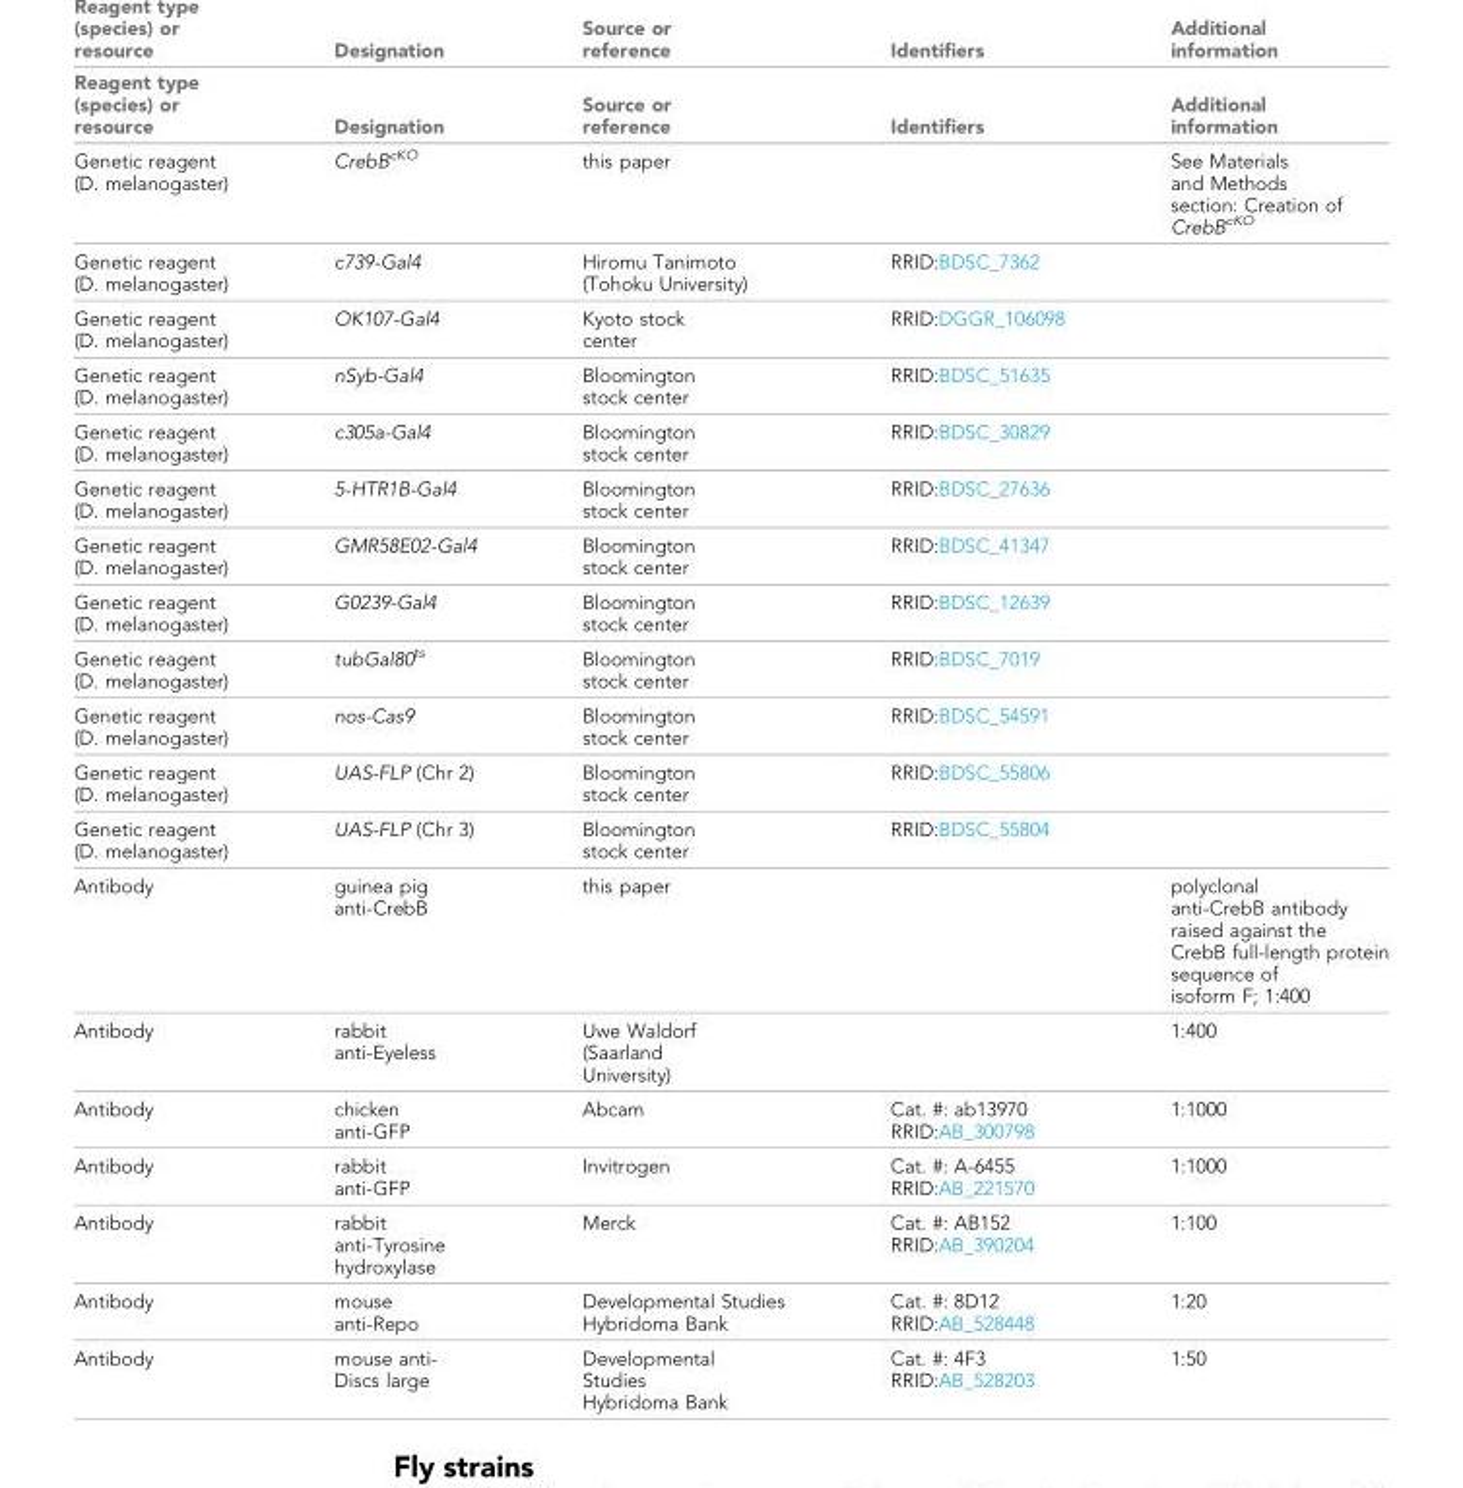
<table><thead><tr><td>Reagent type (species) or resource</td><td>Designation</td><td>Source or reference</td><td>Identifiers</td><td>Additional information</td></tr></thead><tbody><tr><td>Genetic reagent (D. melanogaster)</td><td>CrebB<sup>cKO</sup></td><td>this paper</td><td></td><td>See Materials and Methods section: Creation of CrebB<sup>cKO</sup></td></tr><tr><td>Genetic reagent (D. melanogaster)</td><td>c739-Gal4</td><td>Hiromu Tanimoto (Tohoku University)</td><td>RRID:BDSC_7362</td><td></td></tr><tr><td>Genetic reagent (D. melanogaster)</td><td>OK107-Gal4</td><td>Kyoto stock center</td><td>RRID:DGGR_106098</td><td></td></tr><tr><td>Genetic reagent (D. melanogaster)</td><td>nSyb-Gal4</td><td>Bloomington stock center</td><td>RRID:BDSC_51635</td><td></td></tr><tr><td>Genetic reagent (D. melanogaster)</td><td>c305a-Gal4</td><td>Bloomington stock center</td><td>RRID:BDSC_30829</td><td></td></tr><tr><td>Genetic reagent (D. melanogaster)</td><td>5-HTR1B-Gal4</td><td>Bloomington stock center</td><td>RRID:BDSC_27636</td><td></td></tr><tr><td>Genetic reagent (D. melanogaster)</td><td>GMR58E02-Gal4</td><td>Bloomington stock center</td><td>RRID:BDSC_41347</td><td></td></tr><tr><td>Genetic reagent (D. melanogaster)</td><td>G0239-Gal4</td><td>Bloomington stock center</td><td>RRID:BDSC_12639</td><td></td></tr><tr><td>Genetic reagent (D. melanogaster)</td><td>tubGal80<sup>ts</sup></td><td>Bloomington stock center</td><td>RRID:BDSC_7019</td><td></td></tr><tr><td>Genetic reagent (D. melanogaster)</td><td>nos-Cas9</td><td>Bloomington stock center</td><td>RRID:BDSC_54591</td><td></td></tr><tr><td>Genetic reagent (D. melanogaster)</td><td>UAS-FLP (Chr 2)</td><td>Bloomington stock center</td><td>RRID:BDSC_55806</td><td></td></tr><tr><td>Genetic reagent (D. melanogaster)</td><td>UAS-FLP (Chr 3)</td><td>Bloomington stock center</td><td>RRID:BDSC_55804</td><td></td></tr><tr><td>Antibody</td><td>guinea pig anti-CrebB</td><td>this paper</td><td></td><td>polyclonal anti-CrebB antibody raised against the CrebB full-length protein sequence of isoform F; 1:400</td></tr><tr><td>Antibody</td><td>rabbit anti-Eyeless</td><td>Uwe Waldorf (Saarland University)</td><td></td><td>1:400</td></tr><tr><td>Antibody</td><td>chicken anti-GFP</td><td>Abcam</td><td>Cat. #: ab13970 RRID:AB_300798</td><td>1:1000</td></tr><tr><td>Antibody</td><td>rabbit anti-GFP</td><td>Invitrogen</td><td>Cat. #: A-6455 RRID:AB_221570</td><td>1:1000</td></tr><tr><td>Antibody</td><td>rabbit anti-Tyrosine hydroxylase</td><td>Merck</td><td>Cat. #: AB152 RRID:AB_390204</td><td>1:100</td></tr><tr><td>Antibody</td><td>mouse anti-Repo</td><td>Developmental Studies Hybridoma Bank</td><td>Cat. #: 8D12 RRID:AB_528448</td><td>1:20</td></tr><tr><td>Antibody</td><td>mouse anti- Discs large</td><td>Developmental Studies Hybridoma Bank</td><td>Cat. #: 4F3 RRID:AB_528203</td><td>1:50</td></tr></tbody></table>